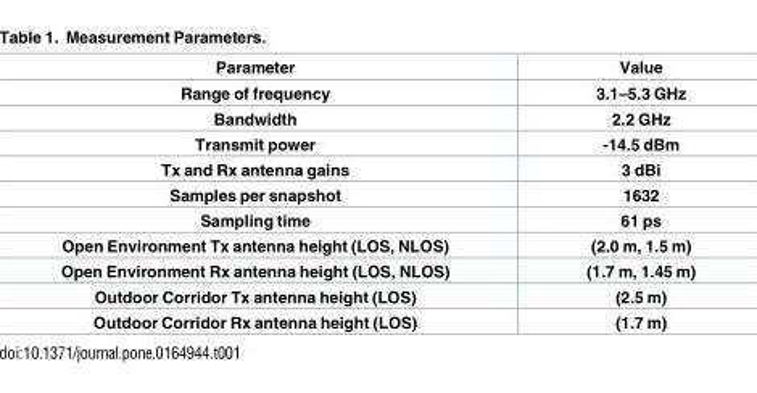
<table><thead><tr><td>Parameter</td><td>Value</td></tr></thead><tbody><tr><td>Range of frequency</td><td>3.1–5.3 GHz</td></tr><tr><td>Bandwidth</td><td>2.2 GHz</td></tr><tr><td>Transmit power</td><td>-14.5 dBm</td></tr><tr><td>Tx and Rx antenna gains</td><td>3 dBi</td></tr><tr><td>Samples per snapshot</td><td>1632</td></tr><tr><td>Sampling time</td><td>61 ps</td></tr><tr><td>Open Environment Tx antenna height (LOS, NLOS)</td><td>(2.0 m, 1.5 m)</td></tr><tr><td>Open Environment Rx antenna height (LOS, NLOS)</td><td>(1.7 m, 1.45 m)</td></tr><tr><td>Outdoor Corridor Tx antenna height (LOS)</td><td>(2.5 m)</td></tr><tr><td>Outdoor Corridor Rx antenna height (LOS)</td><td>(1.7 m)</td></tr></tbody></table>